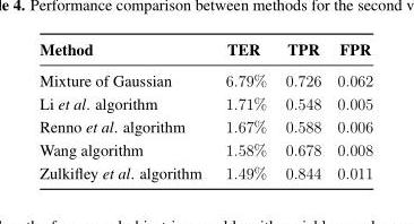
<table><thead><tr><td>Method</td><td>TER</td><td>TPR</td><td>FPR</td></tr></thead><tbody><tr><td>Mixture of Gaussian</td><td>6.79%</td><td>0.726</td><td>0.062</td></tr><tr><td>Li et al. algorithm</td><td>1.71%</td><td>0.548</td><td>0.005</td></tr><tr><td>Renno et al. algorithm</td><td>1.67%</td><td>0.588</td><td>0.006</td></tr><tr><td>Wang algorithm</td><td>1.58%</td><td>0.678</td><td>0.008</td></tr><tr><td>Zulkifley et al. algorithm</td><td>1.49%</td><td>0.844</td><td>0.011</td></tr></tbody></table>